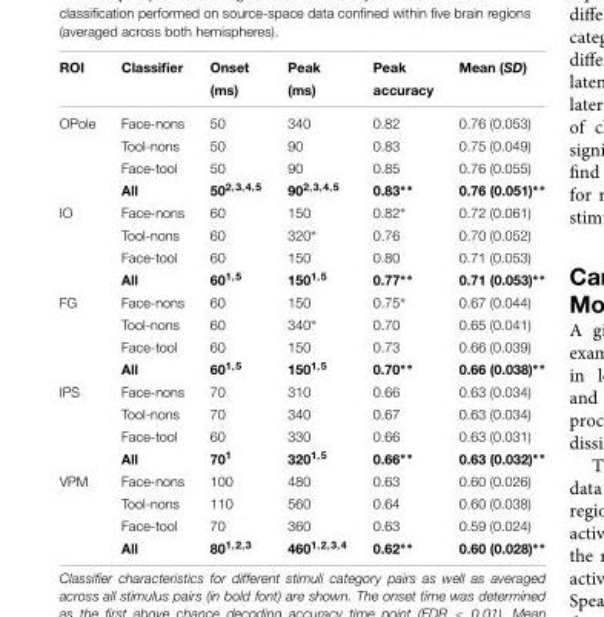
<table><thead><tr><td rowspan="2">ROI</td><td rowspan="2">Classifier</td><td rowspan="2">Onset (ms)</td><td rowspan="2">Peak (ms)</td><td rowspan="2">Peak accuracy</td><td rowspan="2">Mean (SD)</td></tr><tr></tr></thead><tbody><tr><td rowspan="4">OPole</td><td>Face-nons</td><td>50</td><td>340</td><td>0.82</td><td>0.76 (0.053)</td></tr><tr><td>Tool-nons</td><td>50</td><td>90</td><td>0.83</td><td>0.75 (0.049)</td></tr><tr><td>Face-tool</td><td>50</td><td>90</td><td>0.85</td><td>0.76 (0.055)</td></tr><tr><td>All</td><td>50<sup>2,3,4,5</sup></td><td>90<sup>2,3,4,5</sup></td><td>0.83∗∗</td><td>0.76 (0.051)∗∗</td></tr><tr><td rowspan="4">IO</td><td>Face-nons</td><td>60</td><td>150</td><td>0.82∗</td><td>0.72 (0.061)</td></tr><tr><td>Tool-nons</td><td>60</td><td>320∗</td><td>0.76</td><td>0.70 (0.052)</td></tr><tr><td>Face-tool</td><td>60</td><td>150</td><td>0.80</td><td>0.71 (0.053)</td></tr><tr><td>All</td><td>60<sup>1,5</sup></td><td>150<sup>1,5</sup></td><td>0.77∗∗</td><td>0.71 (0.053)∗∗</td></tr><tr><td rowspan="4">FG</td><td>Face-nons</td><td>60</td><td>150</td><td>0.75∗</td><td>0.67 (0.044)</td></tr><tr><td>Tool-nons</td><td>60</td><td>340∗</td><td>0.70</td><td>0.65 (0.041)</td></tr><tr><td>Face-tool</td><td>60</td><td>150</td><td>0.73</td><td>0.66 (0.039)</td></tr><tr><td>All</td><td>60<sup>1,5</sup></td><td>150<sup>1,5</sup></td><td>0.70∗∗</td><td>0.66 (0.038)∗∗</td></tr><tr><td rowspan="4">IPS</td><td>Face-nons</td><td>70</td><td>310</td><td>0.66</td><td>0.63 (0.034)</td></tr><tr><td>Tool-nons</td><td>70</td><td>340</td><td>0.67</td><td>0.63 (0.034)</td></tr><tr><td>Face-tool</td><td>60</td><td>330</td><td>0.66</td><td>0.63 (0.031)</td></tr><tr><td>All</td><td>70<sup>1</sup></td><td>320<sup>1,5</sup></td><td>0.66∗∗</td><td>0.63 (0.032)∗∗</td></tr><tr><td rowspan="4">VPM</td><td>Face-nons</td><td>100</td><td>480</td><td>0.63</td><td>0.60 (0.026)</td></tr><tr><td>Tool-nons</td><td>110</td><td>560</td><td>0.64</td><td>0.60 (0.038)</td></tr><tr><td>Face-tool</td><td>70</td><td>360</td><td>0.63</td><td>0.59 (0.024)</td></tr><tr><td>All</td><td>80<sup>1,2,3</sup></td><td>460<sup>1,2,3,4</sup></td><td>0.62∗∗</td><td>0.60 (0.028)∗∗</td></tr></tbody></table>